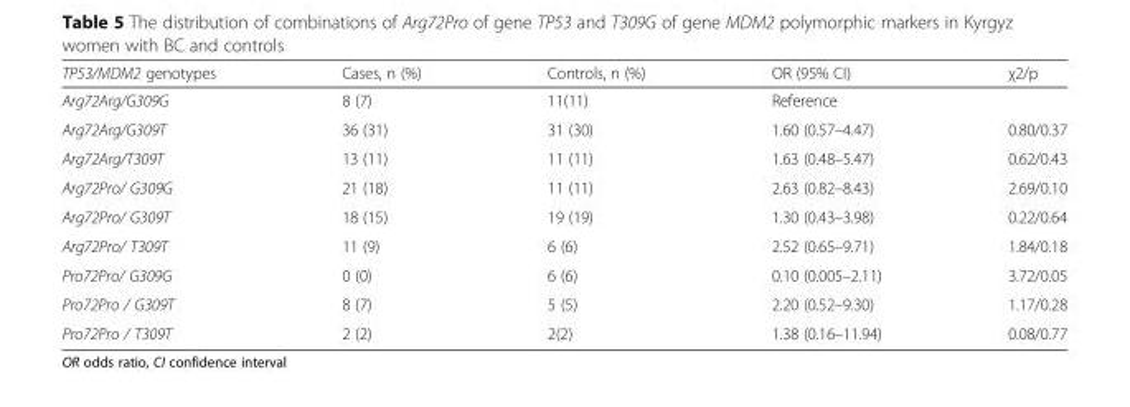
<table><thead><tr><td>TP53/MDM2 genotypes</td><td>Cases, n (%)</td><td>Controls, n (%)</td><td>OR (95% CI)</td><td>χ2/р</td></tr></thead><tbody><tr><td>Arg72Arg/G309G</td><td>8 (7)</td><td>11(11)</td><td>Reference</td><td></td></tr><tr><td>Arg72Arg/G309T</td><td>36 (31)</td><td>31 (30)</td><td>1.60 (0.57–4.47)</td><td>0.80/0.37</td></tr><tr><td>Arg72Arg/T309T</td><td>13 (11)</td><td>11 (11)</td><td>1.63 (0.48–5.47)</td><td>0.62/0.43</td></tr><tr><td>Arg72Pro/ G309G</td><td>21 (18)</td><td>11 (11)</td><td>2.63 (0.82–8.43)</td><td>2.69/0.10</td></tr><tr><td>Arg72Pro/ G309T</td><td>18 (15)</td><td>19 (19)</td><td>1.30 (0.43–3.98)</td><td>0.22/0.64</td></tr><tr><td>Arg72Pro/ T309T</td><td>11 (9)</td><td>6 (6)</td><td>2.52 (0.65–9.71)</td><td>1.84/0.18</td></tr><tr><td>Pro72Pro/ G309G</td><td>0 (0)</td><td>6 (6)</td><td>0.10 (0.005–2.11)</td><td>3.72/0.05</td></tr><tr><td>Pro72Pro / G309T</td><td>8 (7)</td><td>5 (5)</td><td>2.20 (0.52–9.30)</td><td>1.17/0.28</td></tr><tr><td>Pro72Pro / T309T</td><td>2 (2)</td><td>2(2)</td><td>1.38 (0.16–11.94)</td><td>0.08/0.77</td></tr></tbody></table>